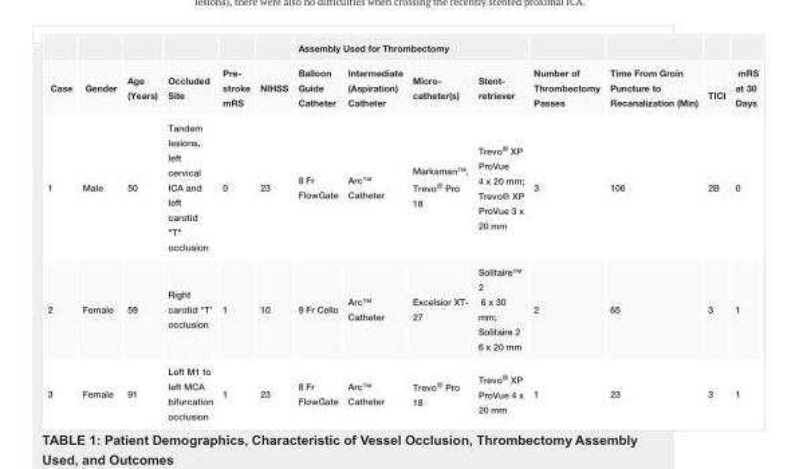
<table><thead><tr><td rowspan="2">Case</td><td rowspan="2">Gender</td><td rowspan="2">Age (Years)</td><td rowspan="2">Occluded Site</td><td rowspan="2">Pre- stroke mRS</td><td rowspan="2">NIHSS</td><td colspan="4">Assembly Used for Thrombectomy</td><td rowspan="2">Number of Thrombectomy Passes</td><td rowspan="2">Time From Groin Puncture to Recanalization (Min)</td><td rowspan="2">TICI</td><td rowspan="2">mRS at 30 Days</td></tr><tr><td>Balloon Guide Catheter</td><td>Intermediate (Aspiration) Catheter</td><td>Micro- catheter(s)</td><td>Stent- retriever</td></tr></thead><tbody><tr><td>1</td><td>Male</td><td>50</td><td>Tandem lesions, left cervical ICA and left carotid &quot;T&quot; occlusion</td><td>0</td><td>23</td><td>8 Fr FlowGate</td><td>Arc™ Catheter</td><td>Marksman™, Trevo<sup>®</sup> Pro 18</td><td>Trevo<sup>®</sup> XP ProVue 4 x 20 mm; Trevo® XP ProVue 3 x 20 mm</td><td>3</td><td>106</td><td>2B</td><td>0</td></tr><tr><td>2</td><td>Female</td><td>59</td><td>Right carotid “T’ occlusion</td><td>1</td><td>10</td><td>9 Fr Cello</td><td>Arc™ Catheter</td><td>Excelsior XT- 27</td><td>Solitaire™ 2 6 x 30 mm; Solitaire 2 6 x 20 mm</td><td>2</td><td>65</td><td>3</td><td>1</td></tr><tr><td>3</td><td>Female</td><td>91</td><td>Left M1 to left MCA bifurcation occlusion</td><td>1</td><td>23</td><td>8 Fr FlowGate</td><td>Arc™ Catheter</td><td>Trevo<sup>®</sup> Pro 18</td><td>Trevo<sup>®</sup> XP ProVue 4 x 20 mm</td><td>1</td><td>23</td><td>3</td><td>1</td></tr></tbody></table>